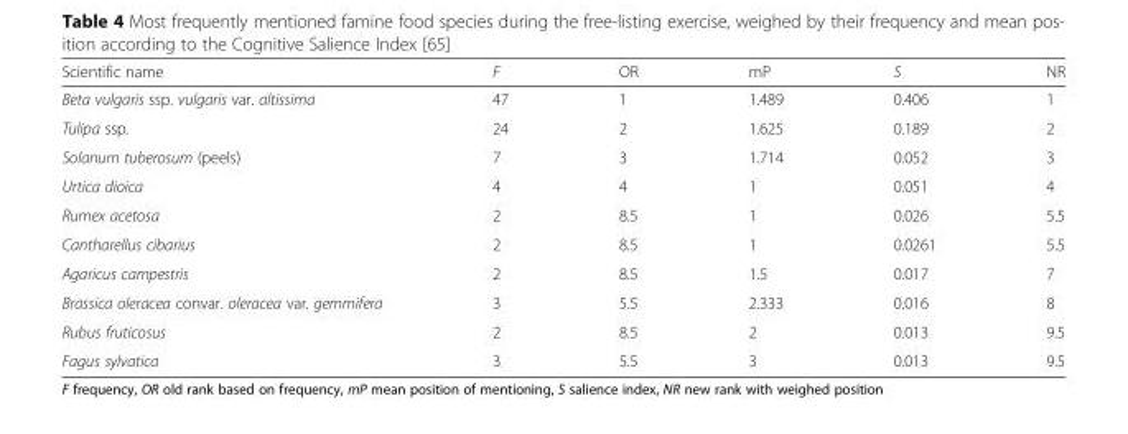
<table><thead><tr><td>Scientific name</td><td>F</td><td>OR</td><td>mP</td><td>S</td><td>NR</td></tr></thead><tbody><tr><td>Beta vulgaris ssp. vulgaris var. altissima</td><td>47</td><td>1</td><td>1.489</td><td>0.406</td><td>1</td></tr><tr><td>Tulipa ssp.</td><td>24</td><td>2</td><td>1.625</td><td>0.189</td><td>2</td></tr><tr><td>Solanum tuberosum (peels)</td><td>7</td><td>3</td><td>1.714</td><td>0.052</td><td>3</td></tr><tr><td>Urtica dioica</td><td>4</td><td>4</td><td>1</td><td>0.051</td><td>4</td></tr><tr><td>Rumex acetosa</td><td>2</td><td>8.5</td><td>1</td><td>0.026</td><td>5.5</td></tr><tr><td>Cantharellus cibarius</td><td>2</td><td>8.5</td><td>1</td><td>0.0261</td><td>5.5</td></tr><tr><td>Agaricus campestris</td><td>2</td><td>8.5</td><td>1.5</td><td>0.017</td><td>7</td></tr><tr><td>Brassica oleracea convar. oleracea var. gemmifera</td><td>3</td><td>5.5</td><td>2.333</td><td>0.016</td><td>8</td></tr><tr><td>Rubus fruticosus</td><td>2</td><td>8.5</td><td>2</td><td>0.013</td><td>9.5</td></tr><tr><td>Fagus sylvatica</td><td>3</td><td>5.5</td><td>3</td><td>0.013</td><td>9.5</td></tr></tbody></table>